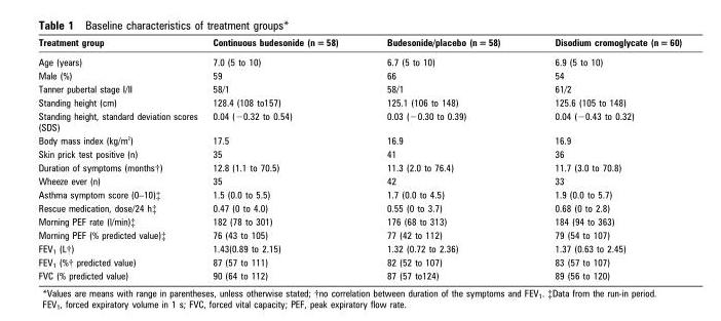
<table><thead><tr><td>Treatment group</td><td>Continuous budesonide (n = 58)</td><td>Budesonide/placebo (n = 58)</td><td>Disodium cromoglycate (n = 60)</td></tr></thead><tbody><tr><td>Age (years)</td><td>7.0 (5 to 10)</td><td>6.7 (5 to 10)</td><td>6.9 (5 to 10)</td></tr><tr><td>Male (%)</td><td>59</td><td>66</td><td>54</td></tr><tr><td>Tanner pubertal stage I/II</td><td>58/1</td><td>58/1</td><td>61/2</td></tr><tr><td>Standing height (cm)</td><td>128.4 (108 to157)</td><td>125.1 (106 to 148)</td><td>125.6 (105 to 148)</td></tr><tr><td>Standing height, standard deviation scores (SDS)</td><td>0.04 (−0.32 to 0.54)</td><td>0.03 (−0.30 to 0.39)</td><td>0.04 (−0.43 to 0.32)</td></tr><tr><td>Body mass index (kg/m <sup>2</sup>)</td><td>17.5</td><td>16.9</td><td>16.9</td></tr><tr><td>Skin prick test positive (n)</td><td>35</td><td>41</td><td>36</td></tr><tr><td>Duration of symptoms (months†)</td><td>12.8 (1.1 to 70.5)</td><td>11.3 (2.0 to 76.4)</td><td>11.7 (3.0 to 70.8)</td></tr><tr><td>Wheeze ever (n)</td><td>35</td><td>42</td><td>33</td></tr><tr><td>Asthma symptom score (0–10)‡</td><td>1.5 (0.0 to 5.5)</td><td>1.7 (0.0 to 4.5)</td><td>1.9 (0.0 to 5.7)</td></tr><tr><td>Rescue medication, dose/24 h‡</td><td>0.47 (0 to 4.0)</td><td>0.55 (0 to 3.7)</td><td>0.68 (0 to 2.8)</td></tr><tr><td>Morning PEF rate (l/min)‡</td><td>182 (78 to 301)</td><td>176 (68 to 313)</td><td>184 (94 to 363)</td></tr><tr><td>Morning PEF (% predicted value)‡</td><td>76 (43 to 105)</td><td>77 (42 to 112)</td><td>79 (54 to 107)</td></tr><tr><td>FEV<sub>1</sub> (L†)</td><td>1.43(0.89 to 2.15)</td><td>1.32 (0.72 to 2.36)</td><td>1.37 (0.63 to 2.45)</td></tr><tr><td>FEV<sub>1</sub> (%† predicted value)</td><td>87 (57 to 111)</td><td>82 (52 to 107)</td><td>83 (57 to 107)</td></tr><tr><td>FVC (% predicted value)</td><td>90 (64 to 112)</td><td>87 (57 to124)</td><td>89 (56 to 120)</td></tr></tbody></table>